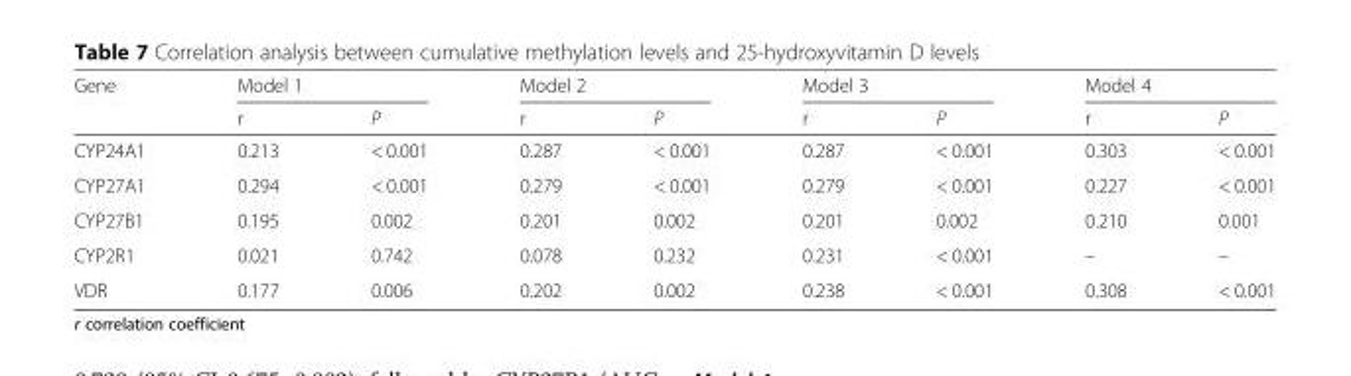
<table><thead><tr><td rowspan="2">Gene</td><td colspan="2">Model 1</td><td colspan="2">Model 2</td><td colspan="2">Model 3</td><td colspan="2">Model 4</td></tr><tr><td>r</td><td>P</td><td>r</td><td>P</td><td>r</td><td>P</td><td>r</td><td>P</td></tr></thead><tbody><tr><td>CYP24A1</td><td>0.213</td><td>&lt; 0.001</td><td>0.287</td><td>&lt; 0.001</td><td>0.287</td><td>&lt; 0.001</td><td>0.303</td><td>&lt; 0.001</td></tr><tr><td>CYP27A1</td><td>0.294</td><td>&lt; 0.001</td><td>0.279</td><td>&lt; 0.001</td><td>0.279</td><td>&lt; 0.001</td><td>0.227</td><td>&lt; 0.001</td></tr><tr><td>CYP27B1</td><td>0.195</td><td>0.002</td><td>0.201</td><td>0.002</td><td>0.201</td><td>0.002</td><td>0.210</td><td>0.001</td></tr><tr><td>CYP2R1</td><td>0.021</td><td>0.742</td><td>0.078</td><td>0.232</td><td>0.231</td><td>&lt; 0.001</td><td>–</td><td>–</td></tr><tr><td>VDR</td><td>0.177</td><td>0.006</td><td>0.202</td><td>0.002</td><td>0.238</td><td>&lt; 0.001</td><td>0.308</td><td>&lt; 0.001</td></tr></tbody></table>